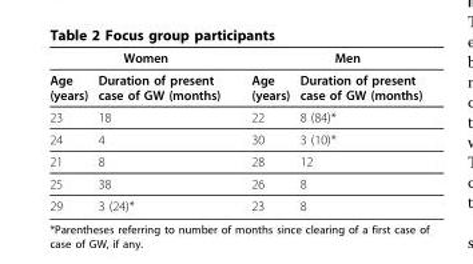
<table><thead><tr><td colspan="2">Women</td><td colspan="2">Men</td></tr><tr><td>Age (years)</td><td>Duration of present case of GW (months)</td><td>Age (years)</td><td>Duration of present case of GW (months)</td></tr></thead><tbody><tr><td>23</td><td>18</td><td>22</td><td>8 (84)*</td></tr><tr><td>24</td><td>4</td><td>30</td><td>3 (10)*</td></tr><tr><td>21</td><td>8</td><td>28</td><td>12</td></tr><tr><td>25</td><td>38</td><td>26</td><td>8</td></tr><tr><td>29</td><td>3 (24)*</td><td>23</td><td>8</td></tr></tbody></table>